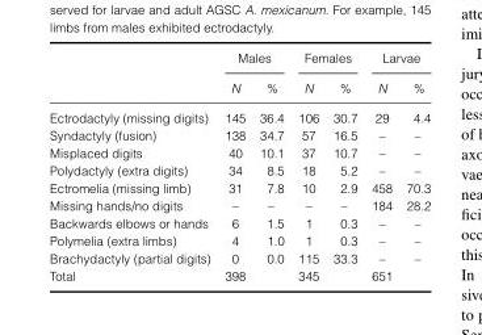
<table><thead><tr><td rowspan="2"></td><td colspan="2">Males</td><td colspan="2">Females</td><td colspan="2">Larvae</td></tr><tr><td>N</td><td>%</td><td>N</td><td>%</td><td>N</td><td>%</td></tr></thead><tbody><tr><td>Ectrodactyly (missing digits)</td><td>145</td><td>36.4</td><td>106</td><td>30.7</td><td>29</td><td>4.4</td></tr><tr><td>Syndactyly (fusion)</td><td>138</td><td>34.7</td><td>57</td><td>16.5</td><td>–</td><td>–</td></tr><tr><td>Misplaced digits</td><td>40</td><td>10.1</td><td>37</td><td>10.7</td><td>–</td><td>–</td></tr><tr><td>Polydactyly (extra digits)</td><td>34</td><td>8.5</td><td>18</td><td>5.2</td><td>–</td><td>–</td></tr><tr><td>Ectromelia (missing limb)</td><td>31</td><td>7.8</td><td>10</td><td>2.9</td><td>458</td><td>70.3</td></tr><tr><td>Missing hands/no digits</td><td>–</td><td>–</td><td>–</td><td>–</td><td>184</td><td>28.2</td></tr><tr><td>Backwards elbows or hands</td><td>6</td><td>1.5</td><td>1</td><td>0.3</td><td>–</td><td>–</td></tr><tr><td>Polymelia (extra limbs)</td><td>4</td><td>1.0</td><td>1</td><td>0.3</td><td>–</td><td>–</td></tr><tr><td>Brachydactyly (partial digits)</td><td>0</td><td>0.0</td><td>115</td><td>33.3</td><td>–</td><td>–</td></tr><tr><td>Total</td><td>398</td><td></td><td>345</td><td></td><td>651</td><td></td></tr></tbody></table>